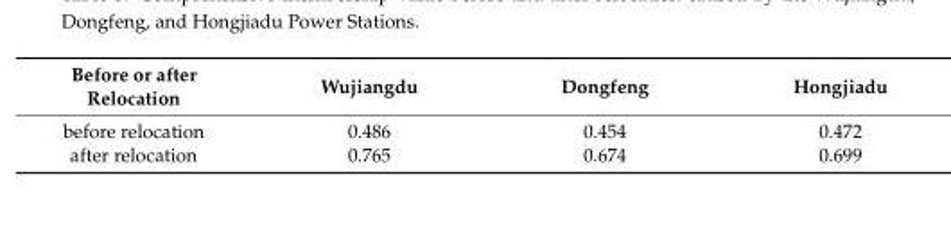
<table><thead><tr><td>Before or after Relocation</td><td>Wujiangdu</td><td>Dongfeng</td><td>Hongjiadu</td></tr></thead><tbody><tr><td>before relocation</td><td>0.486</td><td>0.454</td><td>0.472</td></tr><tr><td>after relocation</td><td>0.765</td><td>0.674</td><td>0.699</td></tr></tbody></table>